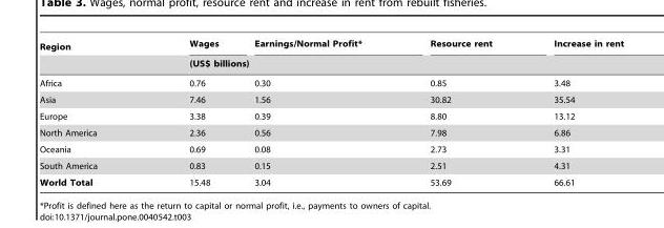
<table><thead><tr><td rowspan="2">Region</td><td>Wages</td><td>Earnings/Normal Profit*</td><td>Resource rent</td><td>Increase in rent</td></tr><tr><td colspan="4">(US$ billions)</td></tr></thead><tbody><tr><td>Africa</td><td>0.76</td><td>0.30</td><td>0.85</td><td>3.48</td></tr><tr><td>Asia</td><td>7.46</td><td>1.56</td><td>30.82</td><td>35.54</td></tr><tr><td>Europe</td><td>3.38</td><td>0.39</td><td>8.80</td><td>13.12</td></tr><tr><td>North America</td><td>2.36</td><td>0.56</td><td>7.98</td><td>6.86</td></tr><tr><td>Oceania</td><td>0.69</td><td>0.08</td><td>2.73</td><td>3.31</td></tr><tr><td>South America</td><td>0.83</td><td>0.15</td><td>2.51</td><td>4.31</td></tr><tr><td>World Total</td><td>15.48</td><td>3.04</td><td>53.69</td><td>66.61</td></tr></tbody></table>